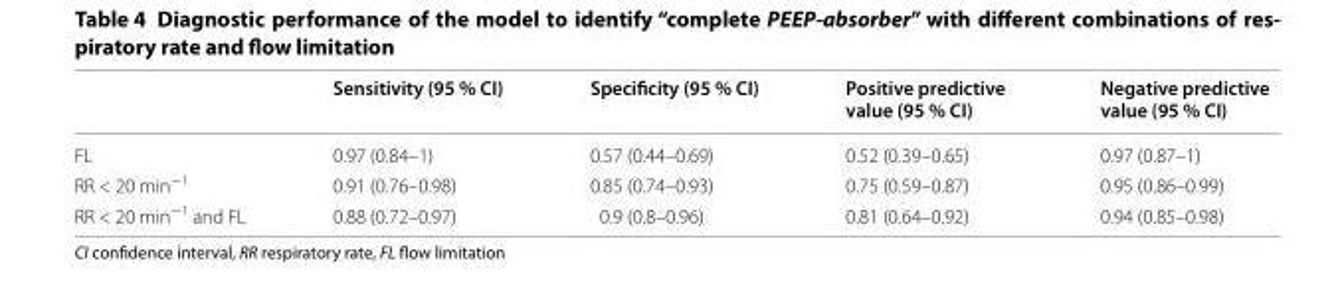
<table><thead><tr><td></td><td>Sensitivity (95 % CI)</td><td>Specificity (95 % CI)</td><td>Positive predictive value (95 % CI)</td><td>Negative predictive value (95 % CI)</td></tr></thead><tbody><tr><td>FL</td><td>0.97 (0.84–1)</td><td>0.57 (0.44–0.69)</td><td>0.52 (0.39–0.65)</td><td>0.97 (0.87–1)</td></tr><tr><td>RR &lt; 20 min<sup>−1</sup></td><td>0.91 (0.76–0.98)</td><td>0.85 (0.74–0.93)</td><td>0.75 (0.59–0.87)</td><td>0.95 (0.86–0.99)</td></tr><tr><td>RR &lt; 20 min<sup>−1</sup> and FL</td><td>0.88 (0.72–0.97)</td><td>0.9 (0.8–0.96)</td><td>0.81 (0.64–0.92)</td><td>0.94 (0.85–0.98)</td></tr></tbody></table>